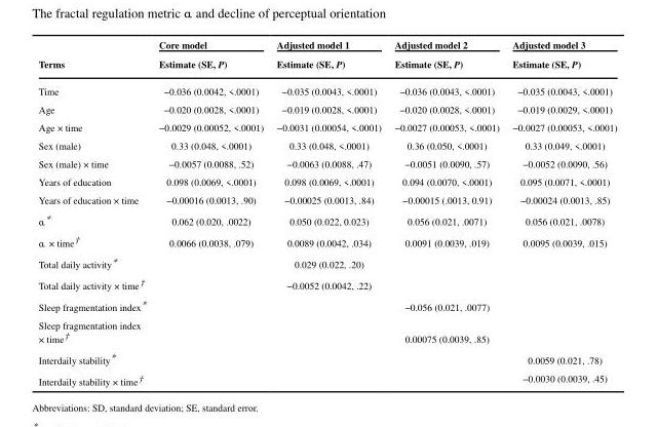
<table><thead><tr><td rowspan="2">Terms</td><td rowspan="2">Core model Estimate (SE, P)</td><td rowspan="2">Adjusted model 1 Estimate (SE, P)</td><td rowspan="2">Adjusted model 2 Estimate (SE, P)</td><td rowspan="2">Adjusted model 3 Estimate (SE, P)</td></tr><tr></tr></thead><tbody><tr><td>Time</td><td>−0.036 (0.0042, &lt;.0001)</td><td>−0.035 (0.0043, &lt;.0001)</td><td>−0.036 (0.0043, &lt;.0001)</td><td>−0.035 (0.0043, &lt;.0001)</td></tr><tr><td>Age</td><td>−0.020 (0.0028, &lt;.0001)</td><td>−0.019 (0.0028, &lt;.0001)</td><td>−0.020 (0.0028, &lt;.0001)</td><td>−0.019 (0.0029, &lt;.0001)</td></tr><tr><td>Age × time</td><td>−0.0029 (0.00052, &lt;.0001)</td><td>−0.0031 (0.00054, &lt;.0001)</td><td>−0.0027 (0.00053, &lt;.0001)</td><td>−0.0027 (0.00053, &lt;.0001)</td></tr><tr><td>Sex (male)</td><td>0.33 (0.048, &lt;.0001)</td><td>0.33 (0.048, &lt;.0001)</td><td>0.36 (0.050, &lt;.0001)</td><td>0.33 (0.049, &lt;.0001)</td></tr><tr><td>Sex (male) × time</td><td>−0.0057 (0.0088, .52)</td><td>−0.0063 (0.0088, .47)</td><td>−0.0051 (0.0090, .57)</td><td>−0.0052 (0.0090, .56)</td></tr><tr><td>Years of education</td><td>0.098 (0.0069, &lt;.0001)</td><td>0.098 (0.0069, &lt;.0001)</td><td>0.094 (0.0070, &lt;.0001)</td><td>0.095 (0.0071, &lt;.0001)</td></tr><tr><td>Years of education × time</td><td>−0.00016 (0.0013, .90)</td><td>−0.00025 (0.0013, .84)</td><td>−0.00015 (.0013, 0.91)</td><td>−0.00024 (0.0013, .85)</td></tr><tr><td>α*</td><td>0.062 (0.020, .0022)</td><td>0.050 (0.022, 0.023)</td><td>0.056 (0.021, .0071)</td><td>0.056 (0.021, .0078)</td></tr><tr><td>α × time†</td><td>0.0066 (0.0038, .079)</td><td>0.0089 (0.0042, .034)</td><td>0.0091 (0.0039, .019)</td><td>0.0095 (0.0039, .015)</td></tr><tr><td>Total daily activity*</td><td></td><td>0.029 (0.022, .20)</td><td></td><td></td></tr><tr><td>Total daily activity × time†</td><td></td><td>−0.0052 (0.0042, .22)</td><td></td><td></td></tr><tr><td>Sleep fragmentation index*</td><td></td><td></td><td>−0.056 (0.021, .0077)</td><td></td></tr><tr><td>Sleep fragmentation index × time†</td><td></td><td></td><td>0.00075 (0.0039, .85)</td><td></td></tr><tr><td>Interdaily stability*</td><td></td><td></td><td></td><td>0.0059 (0.021, .78)</td></tr><tr><td>Interdaily stability × time†</td><td></td><td></td><td></td><td>−0.0030 (0.0039, .45)</td></tr></tbody></table>